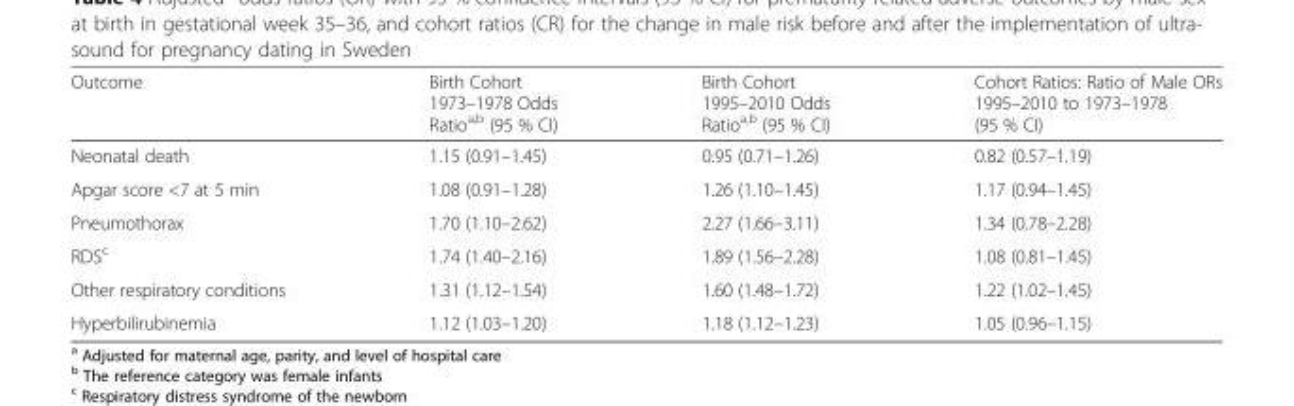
<table><thead><tr><td>Outcome</td><td>Birth Cohort 1973–1978 Odds Ratio<sup>a,b</sup> (95 % CI)</td><td>Birth Cohort 1995–2010 Odds Ratio<sup>a,b</sup> (95 % CI)</td><td>Cohort Ratios: Ratio of Male ORs 1995–2010 to 1973–1978 (95 % CI)</td></tr></thead><tbody><tr><td>Neonatal death</td><td>1.15 (0.91–1.45)</td><td>0.95 (0.71–1.26)</td><td>0.82 (0.57–1.19)</td></tr><tr><td>Apgar score &lt;7 at 5 min</td><td>1.08 (0.91–1.28)</td><td>1.26 (1.10–1.45)</td><td>1.17 (0.94–1.45)</td></tr><tr><td>Pneumothorax</td><td>1.70 (1.10–2.62)</td><td>2.27 (1.66–3.11)</td><td>1.34 (0.78–2.28)</td></tr><tr><td>RDS<sup>c</sup></td><td>1.74 (1.40–2.16)</td><td>1.89 (1.56–2.28)</td><td>1.08 (0.81–1.45)</td></tr><tr><td>Other respiratory conditions</td><td>1.31 (1.12–1.54)</td><td>1.60 (1.48–1.72)</td><td>1.22 (1.02–1.45)</td></tr><tr><td>Hyperbilirubinemia</td><td>1.12 (1.03–1.20)</td><td>1.18 (1.12–1.23)</td><td>1.05 (0.96–1.15)</td></tr></tbody></table>